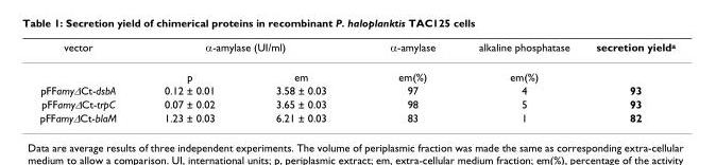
<table><thead><tr><td rowspan="2">vector</td><td colspan="2">α-amylase (UI/ml)</td><td rowspan="2">α-amylase em(%)</td><td rowspan="2">alkaline phosphatase em(%)</td><td rowspan="2">secretion yield<sup>a</sup></td></tr><tr><td>p</td><td>em</td></tr></thead><tbody><tr><td>pFFamy∆Ct-dsbA</td><td>0.12 ± 0.01</td><td>3.58 ± 0.03</td><td>97</td><td>4</td><td>93</td></tr><tr><td>pFFamy∆Ct-trpC</td><td>0.07 ± 0.02</td><td>3.65 ± 0.03</td><td>98</td><td>5</td><td>93</td></tr><tr><td>pFFamy∆Ct-blaM</td><td>1.23 ± 0.03</td><td>6.21 ± 0.03</td><td>83</td><td>1</td><td>82</td></tr></tbody></table>